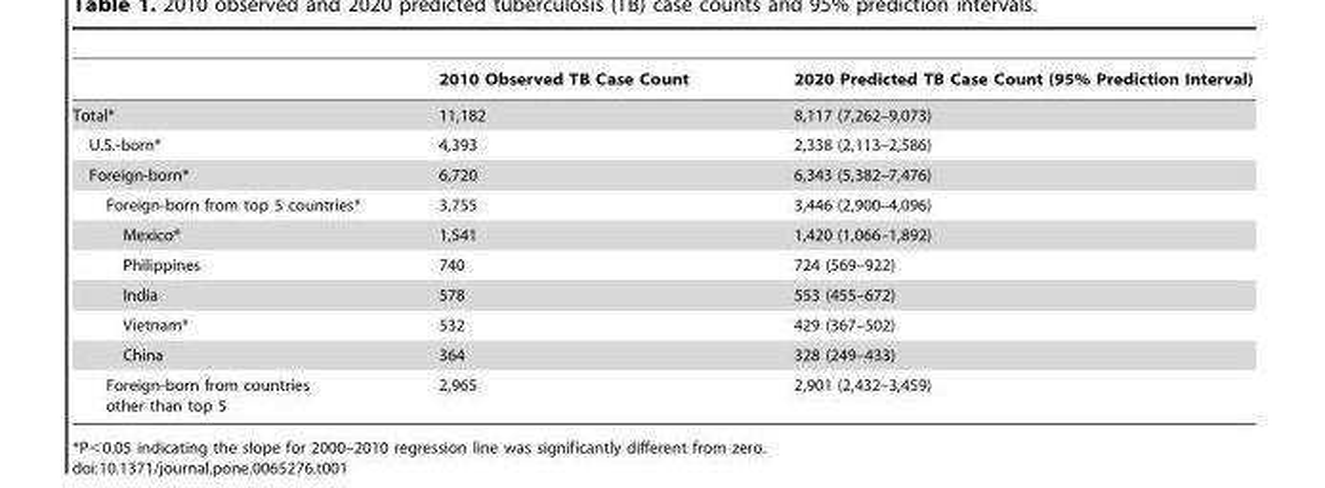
<table><thead><tr><td></td><td>2010 Observed TB Case Count</td><td>2020 Predicted TB Case Count (95% Prediction Interval)</td></tr></thead><tbody><tr><td>Total*</td><td>11,182</td><td>8,117 (7,262–9,073)</td></tr><tr><td>U.S.-born*</td><td>4,393</td><td>2,338 (2,113–2,586)</td></tr><tr><td>Foreign-born*</td><td>6,720</td><td>6,343 (5,382–7,476)</td></tr><tr><td>Foreign-born from top 5 countries*</td><td>3,755</td><td>3,446 (2,900–4,096)</td></tr><tr><td>Mexico*</td><td>1,541</td><td>1,420 (1,066–1,892)</td></tr><tr><td>Philippines</td><td>740</td><td>724 (569–922)</td></tr><tr><td>India</td><td>578</td><td>553 (455–672)</td></tr><tr><td>Vietnam*</td><td>532</td><td>429 (367–502)</td></tr><tr><td>China</td><td>364</td><td>328 (249–433)</td></tr><tr><td>Foreign-born from countries other than top 5</td><td>2,965</td><td>2,901 (2,432–3,459)</td></tr></tbody></table>